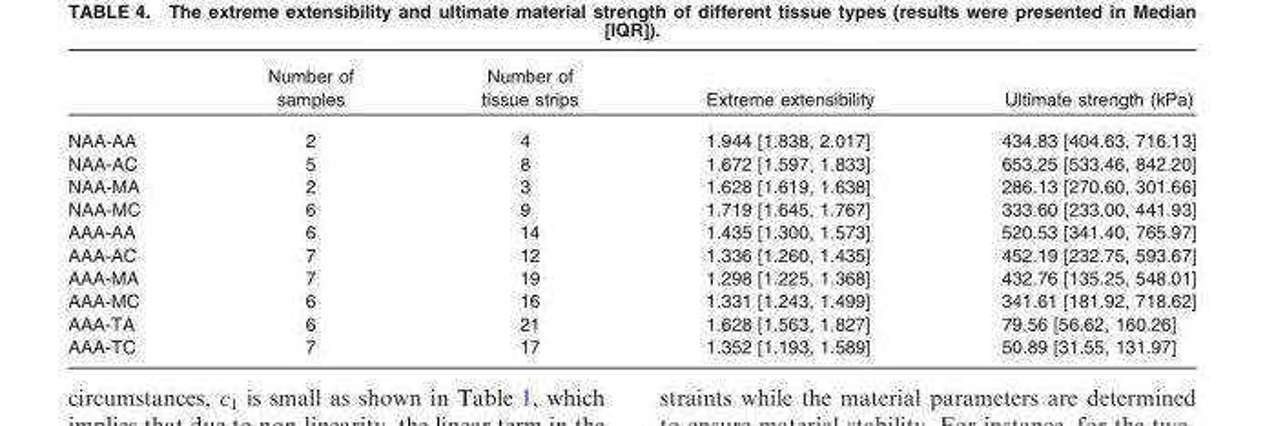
<table><thead><tr><td></td><td>Number of samples</td><td>Number of tissue strips</td><td>Extreme extensibility</td><td>Ultimate strength (kPa)</td></tr></thead><tbody><tr><td>NAA-AA</td><td>2</td><td>4</td><td>1.944 [1.838, 2.017]</td><td>434.83 [404.63, 716.13]</td></tr><tr><td>NAA-AC</td><td>5</td><td>8</td><td>1.672 [1.597, 1.833]</td><td>653.25 [533.46, 842.20]</td></tr><tr><td>NAA-MA</td><td>2</td><td>3</td><td>1.628 [1.619, 1.638]</td><td>286.13 [270.60, 301.66]</td></tr><tr><td>NAA-MC</td><td>6</td><td>9</td><td>1.719 [1.645, 1.767]</td><td>333.60 [233.00, 441.93]</td></tr><tr><td>AAA-AA</td><td>6</td><td>14</td><td>1.435 [1.300, 1.573]</td><td>520.53 [341.40, 765.97]</td></tr><tr><td>AAA-AC</td><td>7</td><td>12</td><td>1.336 [1.260, 1.435]</td><td>452.19 [232.75, 593.67]</td></tr><tr><td>AAA-MA</td><td>7</td><td>19</td><td>1.298 [1.225, 1.368]</td><td>432.76 [135.25, 548.01]</td></tr><tr><td>AAA-MC</td><td>6</td><td>16</td><td>1.331 [1.243, 1.499]</td><td>341.61 [181.92, 718.62]</td></tr><tr><td>AAA-TA</td><td>6</td><td>21</td><td>1.628 [1.563, 1.827]</td><td>79.56 [56.62, 160.26]</td></tr><tr><td>AAA-TC</td><td>7</td><td>17</td><td>1.352 [1.193, 1.589]</td><td>50.89 [31.55, 131.97]</td></tr></tbody></table>